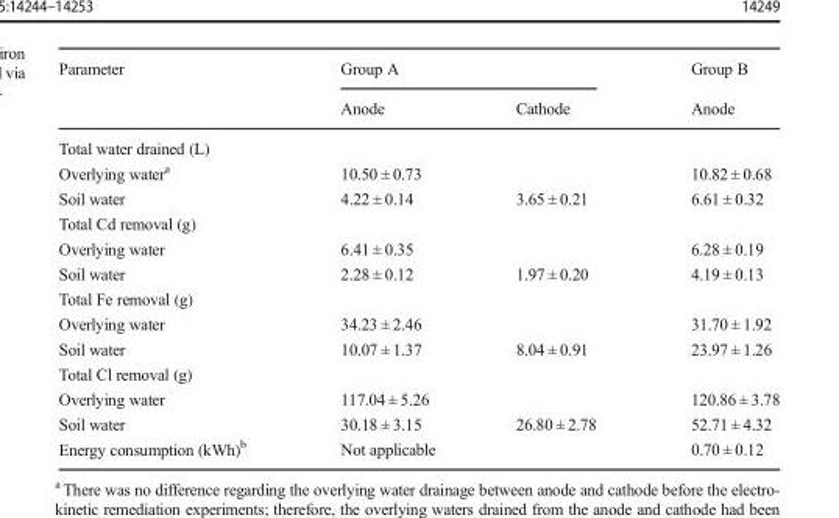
<table><thead><tr><td rowspan="2">Parameter</td><td colspan="2">Group A</td><td rowspan="2">Group B Anode</td></tr><tr><td>Anode</td><td>Cathode</td></tr></thead><tbody><tr><td colspan="4">Total water drained (L)</td></tr><tr><td>Overlying water<sup>a</sup></td><td colspan="2">10.50 ± 0.73</td><td>10.82 ± 0.68</td></tr><tr><td>Soil water</td><td>4.22 ± 0.14</td><td>3.65 ± 0.21</td><td>6.61 ± 0.32</td></tr><tr><td colspan="4">Total Cd removal (g)</td></tr><tr><td>Overlying water</td><td colspan="2">6.41 ± 0.35</td><td>6.28 ± 0.19</td></tr><tr><td>Soil water</td><td>2.28 ± 0.12</td><td>1.97 ± 0.20</td><td>4.19 ± 0.13</td></tr><tr><td colspan="4">Total Fe removal (g)</td></tr><tr><td>Overlying water</td><td colspan="2">34.23 ± 2.46</td><td>31.70 ± 1.92</td></tr><tr><td>Soil water</td><td>10.07 ± 1.37</td><td>8.04 ± 0.91</td><td>23.97 ± 1.26</td></tr><tr><td colspan="4">Total Cl removal (g)</td></tr><tr><td>Overlying water</td><td colspan="2">117.04 ± 5.26</td><td>120.86 ± 3.78</td></tr><tr><td>Soil water</td><td>30.18 ± 3.15</td><td>26.80 ± 2.78</td><td>52.71 ± 4.32</td></tr><tr><td>Energy consumption (kWh)<sup>b</sup></td><td colspan="2">Not applicable</td><td>0.70 ± 0.12</td></tr></tbody></table>